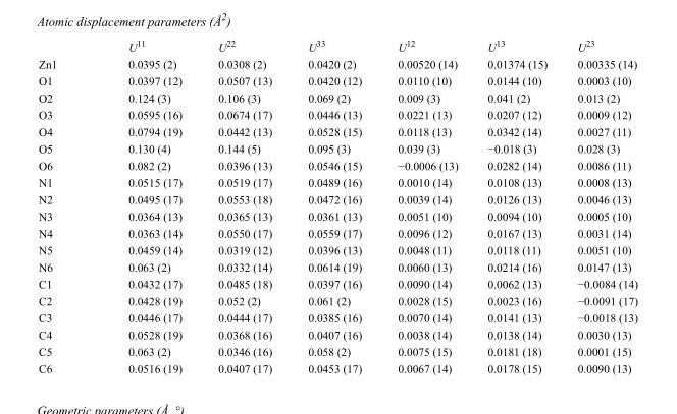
<table><thead><tr><td></td><td>U<sup>11</sup></td><td>U<sup>22</sup></td><td>U<sup>33</sup></td><td>U<sup>12</sup></td><td>U<sup>13</sup></td><td>U<sup>23</sup></td></tr></thead><tbody><tr><td>Zn1</td><td>0.0395 (2)</td><td>0.0308 (2)</td><td>0.0420 (2)</td><td>0.00520 (14)</td><td>0.01374 (15)</td><td>0.00335 (14)</td></tr><tr><td>O1</td><td>0.0397 (12)</td><td>0.0507 (13)</td><td>0.0420 (12)</td><td>0.0110 (10)</td><td>0.0144 (10)</td><td>0.0003 (10)</td></tr><tr><td>O2</td><td>0.124 (3)</td><td>0.106 (3)</td><td>0.069 (2)</td><td>0.009 (3)</td><td>0.041 (2)</td><td>0.013 (2)</td></tr><tr><td>O3</td><td>0.0595 (16)</td><td>0.0674 (17)</td><td>0.0446 (13)</td><td>0.0221 (13)</td><td>0.0207 (12)</td><td>0.0009 (12)</td></tr><tr><td>O4</td><td>0.0794 (19)</td><td>0.0442 (13)</td><td>0.0528 (15)</td><td>0.0118 (13)</td><td>0.0342 (14)</td><td>0.0027 (11)</td></tr><tr><td>O5</td><td>0.130 (4)</td><td>0.144 (5)</td><td>0.095 (3)</td><td>0.039 (3)</td><td>−0.018 (3)</td><td>0.028 (3)</td></tr><tr><td>O6</td><td>0.082 (2)</td><td>0.0396 (13)</td><td>0.0546 (15)</td><td>−0.0006 (13)</td><td>0.0282 (14)</td><td>0.0086 (11)</td></tr><tr><td>N1</td><td>0.0515 (17)</td><td>0.0519 (17)</td><td>0.0489 (16)</td><td>0.0010 (14)</td><td>0.0108 (13)</td><td>0.0008 (13)</td></tr><tr><td>N2</td><td>0.0495 (17)</td><td>0.0553 (18)</td><td>0.0472 (16)</td><td>0.0039 (14)</td><td>0.0126 (13)</td><td>0.0046 (13)</td></tr><tr><td>N3</td><td>0.0364 (13)</td><td>0.0365 (13)</td><td>0.0361 (13)</td><td>0.0051 (10)</td><td>0.0094 (10)</td><td>0.0005 (10)</td></tr><tr><td>N4</td><td>0.0363 (14)</td><td>0.0550 (17)</td><td>0.0559 (17)</td><td>0.0096 (12)</td><td>0.0167 (13)</td><td>0.0031 (14)</td></tr><tr><td>N5</td><td>0.0459 (14)</td><td>0.0319 (12)</td><td>0.0396 (13)</td><td>0.0048 (11)</td><td>0.0118 (11)</td><td>0.0051 (10)</td></tr><tr><td>N6</td><td>0.063 (2)</td><td>0.0332 (14)</td><td>0.0614 (19)</td><td>0.0060 (13)</td><td>0.0214 (16)</td><td>0.0147 (13)</td></tr><tr><td>C1</td><td>0.0432 (17)</td><td>0.0485 (18)</td><td>0.0397 (16)</td><td>0.0090 (14)</td><td>0.0062 (13)</td><td>−0.0084 (14)</td></tr><tr><td>C2</td><td>0.0428 (19)</td><td>0.052 (2)</td><td>0.061 (2)</td><td>0.0028 (15)</td><td>0.0023 (16)</td><td>−0.0091 (17)</td></tr><tr><td>C3</td><td>0.0446 (17)</td><td>0.0444 (17)</td><td>0.0385 (16)</td><td>0.0070 (14)</td><td>0.0141 (13)</td><td>−0.0018 (13)</td></tr><tr><td>C4</td><td>0.0528 (19)</td><td>0.0368 (16)</td><td>0.0407 (16)</td><td>0.0038 (14)</td><td>0.0138 (14)</td><td>0.0030 (13)</td></tr><tr><td>C5</td><td>0.063 (2)</td><td>0.0346 (16)</td><td>0.058 (2)</td><td>0.0075 (15)</td><td>0.0181 (18)</td><td>0.0001 (15)</td></tr><tr><td>C6</td><td>0.0516 (19)</td><td>0.0407 (17)</td><td>0.0453 (17)</td><td>0.0067 (14)</td><td>0.0178 (15)</td><td>0.0090 (13)</td></tr></tbody></table>